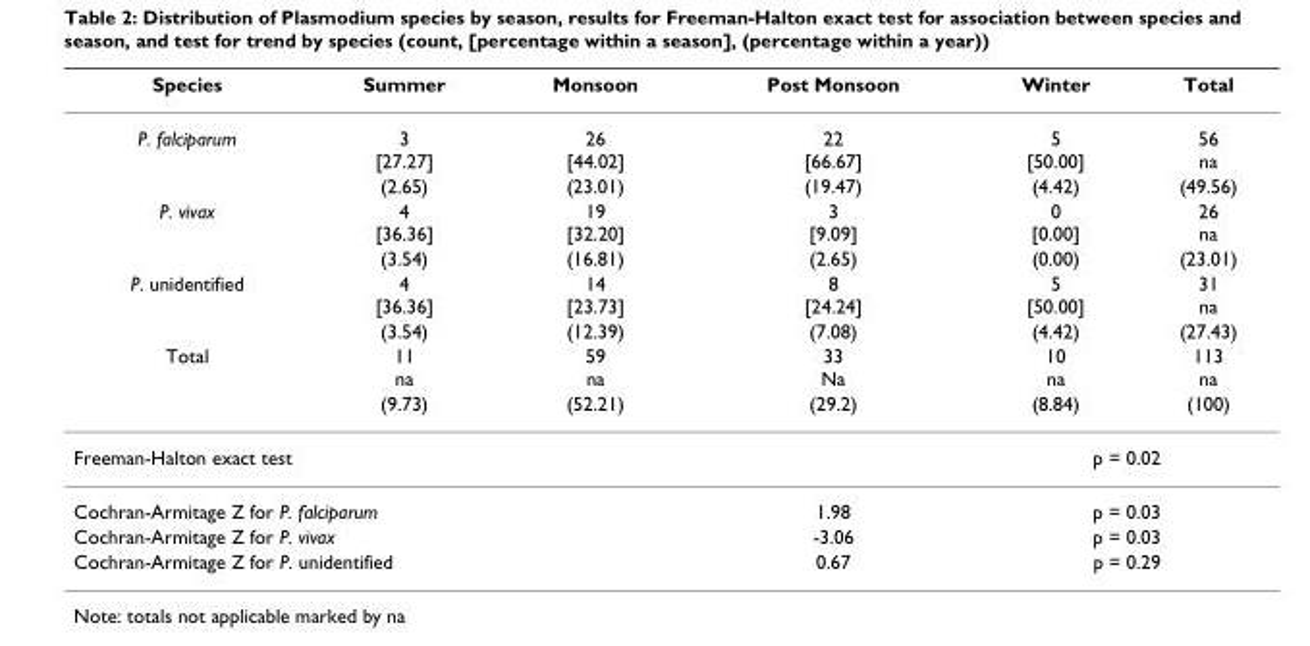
<table><thead><tr><td>Species</td><td>Summer</td><td>Monsoon</td><td>Post Monsoon</td><td>Winter</td><td>Total</td></tr></thead><tbody><tr><td rowspan="2">P. falciparum</td><td>3 [27.27]</td><td>26 [44.02]</td><td>22 [66.67]</td><td>5 [50.00]</td><td>56 na</td></tr><tr><td>(2.65)</td><td>(23.01)</td><td>(19.47)</td><td>(4.42)</td><td>(49.56)</td></tr><tr><td rowspan="2">P. vivax</td><td>4 [36.36]</td><td>19 [32.20]</td><td>3 [9.09]</td><td>0 [0.00]</td><td>26 na</td></tr><tr><td>(3.54)</td><td>(16.81)</td><td>(2.65)</td><td>(0.00)</td><td>(23.01)</td></tr><tr><td rowspan="2">P. unidentified</td><td>4 [36.36]</td><td>14 [23.73]</td><td>8 [24.24]</td><td>5 [50.00]</td><td>31 na</td></tr><tr><td>(3.54)</td><td>(12.39)</td><td>(7.08)</td><td>(4.42)</td><td>(27.43)</td></tr><tr><td rowspan="2">Total</td><td>11 na</td><td>59 na</td><td>33 Na</td><td>10 na</td><td>113 na</td></tr><tr><td>(9.73)</td><td>(52.21)</td><td>(29.2)</td><td>(8.84)</td><td>(100)</td></tr><tr><td colspan="3">Freeman-Halton exact test</td><td></td><td colspan="2">p = 0.02</td></tr><tr><td colspan="3">Cochran-Armitage Z for P. falciparum</td><td>1.98</td><td colspan="2">p = 0.03</td></tr><tr><td colspan="3">Cochran-Armitage Z for P. vivax</td><td>-3.06</td><td colspan="2">p = 0.03</td></tr><tr><td colspan="3">Cochran-Armitage Z for P. unidentified</td><td>0.67</td><td colspan="2">p = 0.29</td></tr></tbody></table>